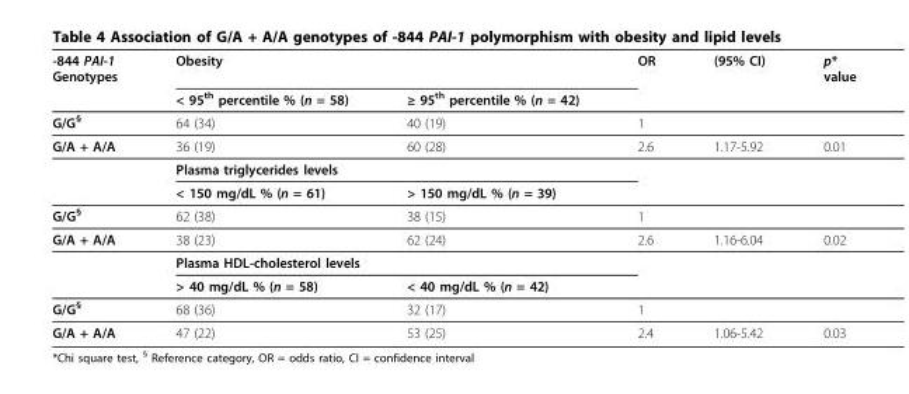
<table><thead><tr><td rowspan="2">-844 PAI-1 Genotypes</td><td colspan="2">Obesity</td><td rowspan="2">OR</td><td rowspan="2">(95% CI)</td><td rowspan="2">p* value</td></tr><tr><td>&lt; 95<sup>th</sup> percentile % (n = 58)</td><td>≥ 95<sup>th</sup> percentile % (n = 42)</td></tr></thead><tbody><tr><td>G/G<sup>§</sup></td><td>64 (34)</td><td>40 (19)</td><td>1</td><td></td><td></td></tr><tr><td rowspan="3">G/A + A/A</td><td>36 (19)</td><td>60 (28)</td><td>2.6</td><td>1.17-5.92</td><td>0.01</td></tr><tr><td colspan="2">Plasma triglycerides levels</td><td></td><td></td><td></td></tr><tr><td>&lt; 150 mg/dL % (n = 61)</td><td>&gt; 150 mg/dL % (n = 39)</td><td></td><td></td><td></td></tr><tr><td>G/G<sup>§</sup></td><td>62 (38)</td><td>38 (15)</td><td>1</td><td></td><td></td></tr><tr><td rowspan="3">G/A + A/A</td><td>38 (23)</td><td>62 (24)</td><td>2.6</td><td>1.16-6.04</td><td>0.02</td></tr><tr><td colspan="2">Plasma HDL-cholesterol levels</td><td></td><td></td><td></td></tr><tr><td>&gt; 40 mg/dL % (n = 58)</td><td>&lt; 40 mg/dL % (n = 42)</td><td></td><td></td><td></td></tr><tr><td>G/G<sup>§</sup></td><td>68 (36)</td><td>32 (17)</td><td>1</td><td></td><td></td></tr><tr><td>G/A + A/A</td><td>47 (22)</td><td>53 (25)</td><td>2.4</td><td>1.06-5.42</td><td>0.03</td></tr></tbody></table>